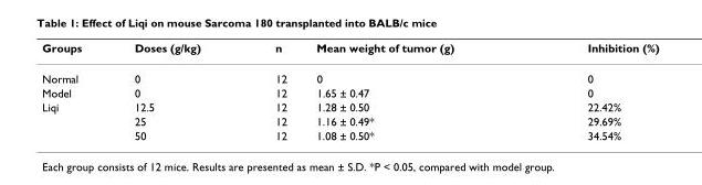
<table><thead><tr><td>Groups</td><td>Doses (g/kg)</td><td>n</td><td>Mean weight of tumor (g)</td><td>Inhibition (%)</td></tr></thead><tbody><tr><td>Normal</td><td>0</td><td>12</td><td>0</td><td>0</td></tr><tr><td>Model</td><td>0</td><td>12</td><td>1.65 ± 0.47</td><td>0</td></tr><tr><td rowspan="3">Liqi</td><td>12.5</td><td>12</td><td>1.28 ± 0.50</td><td>22.42%</td></tr><tr><td>25</td><td>12</td><td>1.16 ± 0.49*</td><td>29.69%</td></tr><tr><td>50</td><td>12</td><td>1.08 ± 0.50*</td><td>34.54%</td></tr></tbody></table>